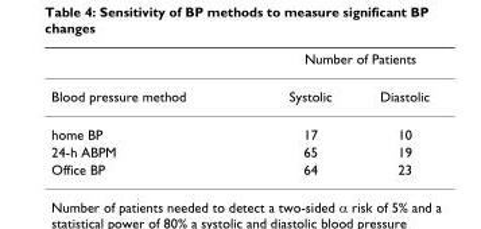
<table><thead><tr><td rowspan="2">Blood pressure method</td><td colspan="2">Number of Patients</td></tr><tr><td>Systolic</td><td>Diastolic</td></tr></thead><tbody><tr><td>home BP</td><td>17</td><td>10</td></tr><tr><td>24-h ABPM</td><td>65</td><td>19</td></tr><tr><td>Office BP</td><td>64</td><td>23</td></tr></tbody></table>